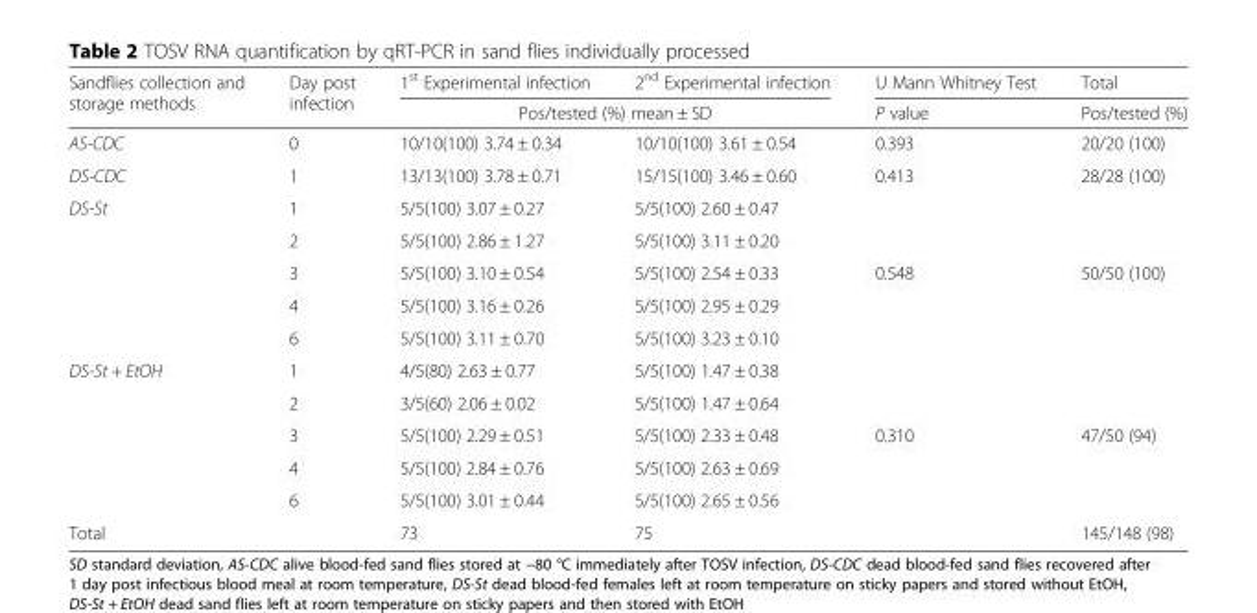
<table><thead><tr><td rowspan="2">Sandflies collection and storage methods</td><td rowspan="2">Day post infection</td><td>1<sup>st</sup> Experimental infection</td><td>2<sup>nd</sup> Experimental infection</td><td rowspan="2">U Mann Whitney Test P value</td><td rowspan="2">Total Pos/tested (%)</td></tr><tr><td colspan="2">Pos/tested (%) mean ± SD</td></tr></thead><tbody><tr><td>AS-CDC</td><td>0</td><td>10/10(100) 3.74 ± 0.34</td><td>10/10(100) 3.61 ± 0.54</td><td>0.393</td><td>20/20 (100)</td></tr><tr><td>DS-CDC</td><td>1</td><td>13/13(100) 3.78 ± 0.71</td><td>15/15(100) 3.46 ± 0.60</td><td>0.413</td><td>28/28 (100)</td></tr><tr><td rowspan="5">DS-St</td><td>1</td><td>5/5(100) 3.07 ± 0.27</td><td>5/5(100) 2.60 ± 0.47</td><td></td><td></td></tr><tr><td>2</td><td>5/5(100) 2.86 ± 1.27</td><td>5/5(100) 3.11 ± 0.20</td><td></td><td></td></tr><tr><td>3</td><td>5/5(100) 3.10 ± 0.54</td><td>5/5(100) 2.54 ± 0.33</td><td>0.548</td><td>50/50 (100)</td></tr><tr><td>4</td><td>5/5(100) 3.16 ± 0.26</td><td>5/5(100) 2.95 ± 0.29</td><td></td><td></td></tr><tr><td>6</td><td>5/5(100) 3.11 ± 0.70</td><td>5/5(100) 3.23 ± 0.10</td><td></td><td></td></tr><tr><td rowspan="5">DS-St + EtOH</td><td>1</td><td>4/5(80) 2.63 ± 0.77</td><td>5/5(100) 1.47 ± 0.38</td><td></td><td></td></tr><tr><td>2</td><td>3/5(60) 2.06 ± 0.02</td><td>5/5(100) 1.47 ± 0.64</td><td></td><td></td></tr><tr><td>3</td><td>5/5(100) 2.29 ± 0.51</td><td>5/5(100) 2.33 ± 0.48</td><td>0.310</td><td>47/50 (94)</td></tr><tr><td>4</td><td>5/5(100) 2.84 ± 0.76</td><td>5/5(100) 2.63 ± 0.69</td><td></td><td></td></tr><tr><td>6</td><td>5/5(100) 3.01 ± 0.44</td><td>5/5(100) 2.65 ± 0.56</td><td></td><td></td></tr><tr><td>Total</td><td></td><td>73</td><td>75</td><td></td><td>145/148 (98)</td></tr></tbody></table>